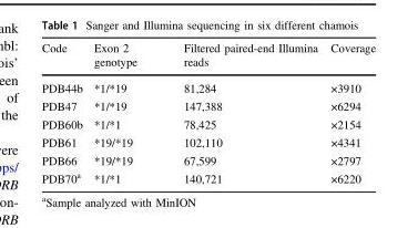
<table><thead><tr><td>Code</td><td>Exon 2 genotype</td><td>Filtered paired-end Illumina reads</td><td>Coverage</td></tr></thead><tbody><tr><td>PDB44b</td><td>*1/*19</td><td>81,284</td><td>×3910</td></tr><tr><td>PDB47</td><td>*1/*19</td><td>147,388</td><td>×6294</td></tr><tr><td>PDB60b</td><td>*1/*1</td><td>78,425</td><td>×2154</td></tr><tr><td>PDB61</td><td>*19/*19</td><td>102,110</td><td>×4341</td></tr><tr><td>PDB66</td><td>*19/*19</td><td>67,599</td><td>×2797</td></tr><tr><td>PDB70<sup>a</sup></td><td>*1/*1</td><td>140,721</td><td>×6220</td></tr></tbody></table>